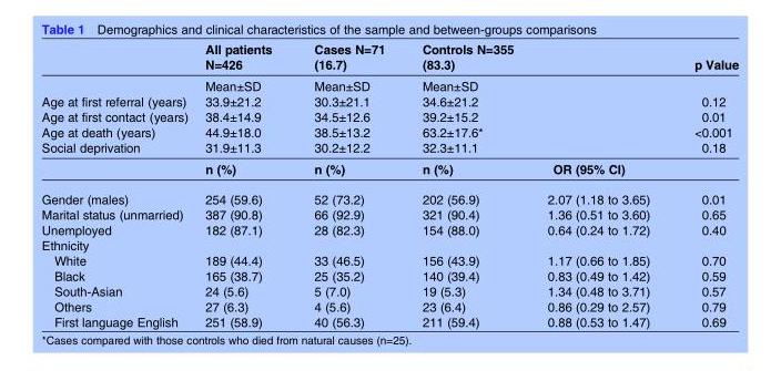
<table><thead><tr><td></td><td>All patients N=426</td><td>Cases N=71 (16.7)</td><td>Controls N=355 (83.3)</td><td></td><td>p Value</td></tr></thead><tbody><tr><td></td><td>Mean±SD</td><td>Mean±SD</td><td>Mean±SD</td><td></td><td></td></tr><tr><td>Age at first referral (years)</td><td>33.9±21.2</td><td>30.3±21.1</td><td>34.6±21.2</td><td></td><td>0.12</td></tr><tr><td>Age at first contact (years)</td><td>38.4±14.9</td><td>34.5±12.6</td><td>39.2±15.2</td><td></td><td>0.01</td></tr><tr><td>Age at death (years)</td><td>44.9±18.0</td><td>38.5±13.2</td><td>63.2±17.6*</td><td></td><td>&lt;0.001</td></tr><tr><td rowspan="2">Social deprivation</td><td>31.9±11.3</td><td>30.2±12.2</td><td>32.3±11.1</td><td></td><td>0.18</td></tr><tr><td>n (%)</td><td>n (%)</td><td>n (%)</td><td>OR (95% CI)</td><td></td></tr><tr><td>Gender (males)</td><td>254 (59.6)</td><td>52 (73.2)</td><td>202 (56.9)</td><td>2.07 (1.18 to 3.65)</td><td>0.01</td></tr><tr><td>Marital status (unmarried)</td><td>387 (90.8)</td><td>66 (92.9)</td><td>321 (90.4)</td><td>1.36 (0.51 to 3.60)</td><td>0.65</td></tr><tr><td>Unemployed</td><td>182 (87.1)</td><td>28 (82.3)</td><td>154 (88.0)</td><td>0.64 (0.24 to 1.72)</td><td>0.40</td></tr><tr><td colspan="6">Ethnicity</td></tr><tr><td>White</td><td>189 (44.4)</td><td>33 (46.5)</td><td>156 (43.9)</td><td>1.17 (0.66 to 1.85)</td><td>0.70</td></tr><tr><td>Black</td><td>165 (38.7)</td><td>25 (35.2)</td><td>140 (39.4)</td><td>0.83 (0.49 to 1.42)</td><td>0.59</td></tr><tr><td>South-Asian</td><td>24 (5.6)</td><td>5 (7.0)</td><td>19 (5.3)</td><td>1.34 (0.48 to 3.71)</td><td>0.57</td></tr><tr><td>Others</td><td>27 (6.3)</td><td>4 (5.6)</td><td>23 (6.4)</td><td>0.86 (0.29 to 2.57)</td><td>0.79</td></tr><tr><td>First language English</td><td>251 (58.9)</td><td>40 (56.3)</td><td>211 (59.4)</td><td>0.88 (0.53 to 1.47)</td><td>0.69</td></tr></tbody></table>